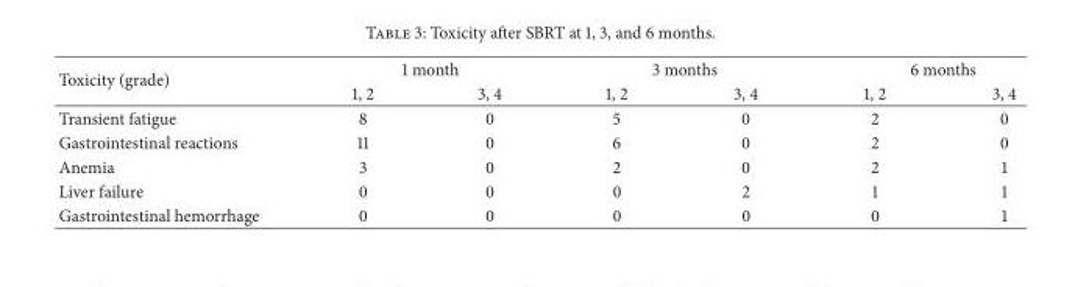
<table><thead><tr><td rowspan="2">Toxicity (grade)</td><td colspan="2">1 month</td><td colspan="2">3 months</td><td colspan="2">6 months</td></tr><tr><td>1, 2</td><td>3, 4</td><td>1, 2</td><td>3, 4</td><td>1, 2</td><td>3, 4</td></tr></thead><tbody><tr><td>Transient fatigue</td><td>8</td><td>0</td><td>5</td><td>0</td><td>2</td><td>0</td></tr><tr><td>Gastrointestinal reactions</td><td>11</td><td>0</td><td>6</td><td>0</td><td>2</td><td>0</td></tr><tr><td>Anemia</td><td>3</td><td>0</td><td>2</td><td>0</td><td>2</td><td>1</td></tr><tr><td>Liver failure</td><td>0</td><td>0</td><td>0</td><td>2</td><td>1</td><td>1</td></tr><tr><td>Gastrointestinal hemorrhage</td><td>0</td><td>0</td><td>0</td><td>0</td><td>0</td><td>1</td></tr></tbody></table>